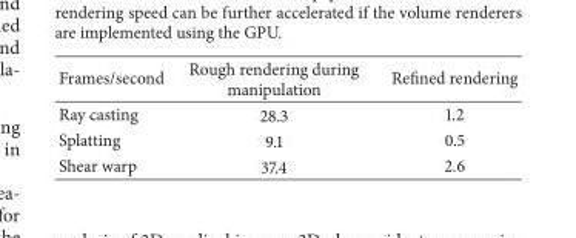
<table><thead><tr><td>Frames/second</td><td>Rough rendering during manipulation</td><td>Refined rendering</td></tr></thead><tbody><tr><td>Ray casting</td><td>28.3</td><td>1.2</td></tr><tr><td>Splatting</td><td>9.1</td><td>0.5</td></tr><tr><td>Shear warp</td><td>37.4</td><td>2.6</td></tr></tbody></table>